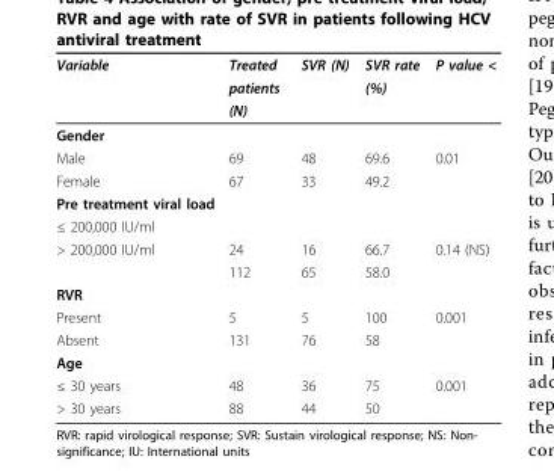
<table><thead><tr><td rowspan="3">Variable</td><td rowspan="3">Treated patients (N)</td><td rowspan="3">SVR (N)</td><td rowspan="3">SVR rate (%)</td><td rowspan="3">P value &lt;</td></tr><tr></tr><tr></tr></thead><tbody><tr><td colspan="5">Gender</td></tr><tr><td>Male</td><td>69</td><td>48</td><td>69.6</td><td>0.01</td></tr><tr><td>Female</td><td>67</td><td>33</td><td>49.2</td><td></td></tr><tr><td colspan="5">Pre treatment viral load</td></tr><tr><td colspan="5">≤ 200,000 IU/ml</td></tr><tr><td rowspan="2">&gt; 200,000 IU/ml</td><td>24</td><td>16</td><td>66.7</td><td>0.14 (NS)</td></tr><tr><td>112</td><td>65</td><td>58.0</td><td></td></tr><tr><td colspan="5">RVR</td></tr><tr><td>Present</td><td>5</td><td>5</td><td>100</td><td>0.001</td></tr><tr><td>Absent</td><td>131</td><td>76</td><td>58</td><td></td></tr><tr><td colspan="5">Age</td></tr><tr><td>≤ 30 years</td><td>48</td><td>36</td><td>75</td><td>0.001</td></tr><tr><td>&gt; 30 years</td><td>88</td><td>44</td><td>50</td><td></td></tr></tbody></table>